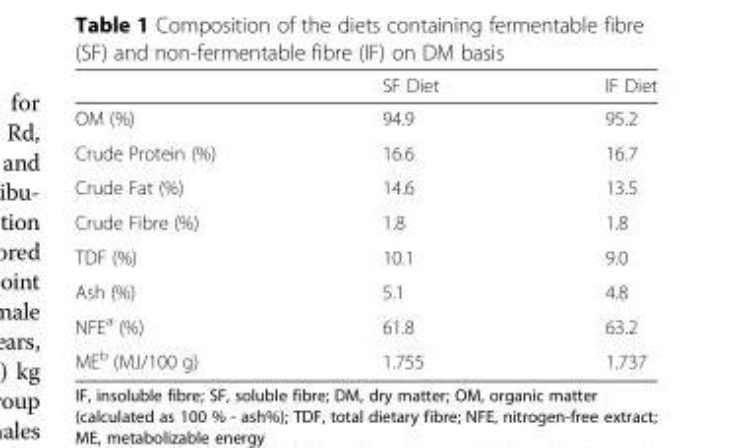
<table><thead><tr><td></td><td>SF Diet</td><td>IF Diet</td></tr></thead><tbody><tr><td>OM (%)</td><td>94.9</td><td>95.2</td></tr><tr><td>Crude Protein (%)</td><td>16.6</td><td>16.7</td></tr><tr><td>Crude Fat (%)</td><td>14.6</td><td>13.5</td></tr><tr><td>Crude Fibre (%)</td><td>1.8</td><td>1.8</td></tr><tr><td>TDF (%)</td><td>10.1</td><td>9.0</td></tr><tr><td>Ash (%)</td><td>5.1</td><td>4.8</td></tr><tr><td>NFE<sup>a</sup> (%)</td><td>61.8</td><td>63.2</td></tr><tr><td>ME<sup>b</sup> (MJ/100 g)</td><td>1.755</td><td>1.737</td></tr></tbody></table>